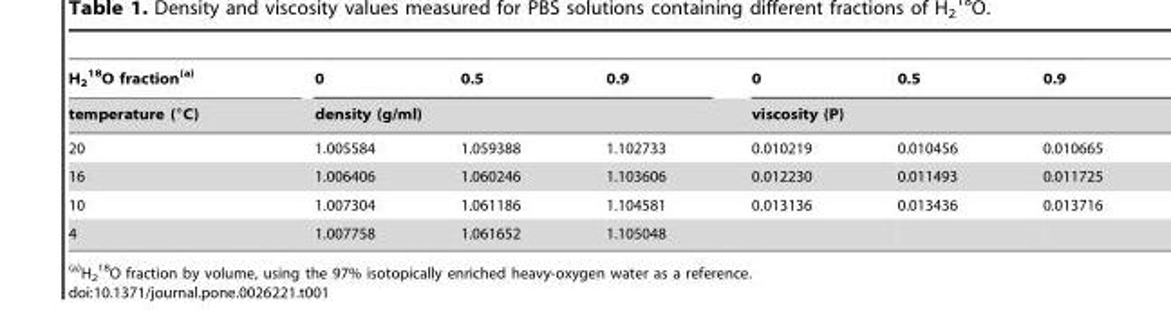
<table><thead><tr><td rowspan="2">H<sub>2</sub> <sup>18</sup>O fraction(a) temperature (°C)</td><td>0</td><td>0.5</td><td>0.9</td><td>0</td><td>0.5</td><td>0.9</td></tr><tr><td colspan="3">density (g/ml)</td><td colspan="3">viscosity (P)</td></tr></thead><tbody><tr><td>20</td><td>1.005584</td><td>1.059388</td><td>1.102733</td><td>0.010219</td><td>0.010456</td><td>0.010665</td></tr><tr><td>16</td><td>1.006406</td><td>1.060246</td><td>1.103606</td><td>0.012230</td><td>0.011493</td><td>0.011725</td></tr><tr><td>10</td><td>1.007304</td><td>1.061186</td><td>1.104581</td><td>0.013136</td><td>0.013436</td><td>0.013716</td></tr><tr><td>4</td><td>1.007758</td><td>1.061652</td><td>1.105048</td><td></td><td></td><td></td></tr></tbody></table>